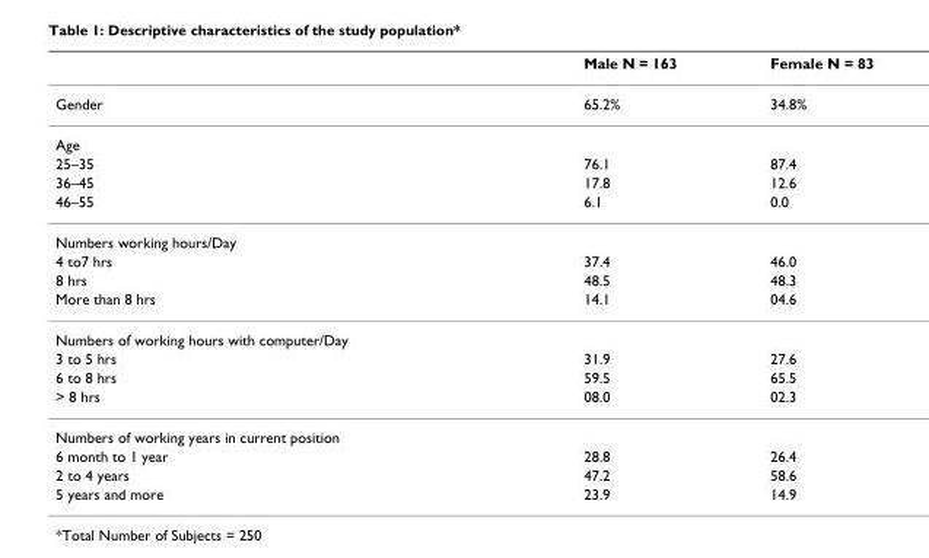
<table><thead><tr><td></td><td>Male N = 163</td><td>Female N = 83</td></tr></thead><tbody><tr><td>Gender</td><td>65.2%</td><td>34.8%</td></tr><tr><td colspan="3">Age</td></tr><tr><td>25–35</td><td>76.1</td><td>87.4</td></tr><tr><td>36–45</td><td>17.8</td><td>12.6</td></tr><tr><td>46–55</td><td>6.1</td><td>0.0</td></tr><tr><td colspan="3">Numbers working hours/Day</td></tr><tr><td>4 to7 hrs</td><td>37.4</td><td>46.0</td></tr><tr><td>8 hrs</td><td>48.5</td><td>48.3</td></tr><tr><td>More than 8 hrs</td><td>14.1</td><td>04.6</td></tr><tr><td colspan="3">Numbers of working hours with computer/Day</td></tr><tr><td>3 to 5 hrs</td><td>31.9</td><td>27.6</td></tr><tr><td>6 to 8 hrs</td><td>59.5</td><td>65.5</td></tr><tr><td>&gt; 8 hrs</td><td>08.0</td><td>02.3</td></tr><tr><td colspan="3">Numbers of working years in current position</td></tr><tr><td>6 month to 1 year</td><td>28.8</td><td>26.4</td></tr><tr><td>2 to 4 years</td><td>47.2</td><td>58.6</td></tr><tr><td>5 years and more</td><td>23.9</td><td>14.9</td></tr></tbody></table>